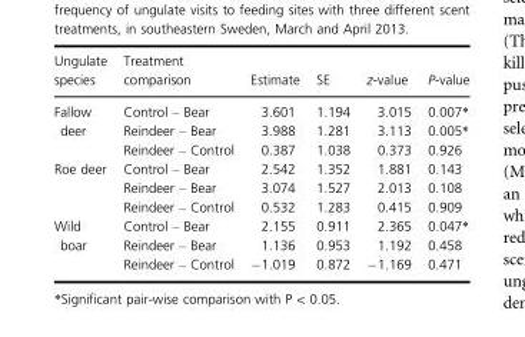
<table><thead><tr><td>Ungulate species</td><td>Treatment comparison</td><td>Estimate</td><td>SE</td><td>z-value</td><td>P-value</td></tr></thead><tbody><tr><td rowspan="3">Fallow deer</td><td>Control – Bear</td><td>3.601</td><td>1.194</td><td>3.015</td><td>0.007*</td></tr><tr><td>Reindeer – Bear</td><td>3.988</td><td>1.281</td><td>3.113</td><td>0.005*</td></tr><tr><td>Reindeer – Control</td><td>0.387</td><td>1.038</td><td>0.373</td><td>0.926</td></tr><tr><td rowspan="3">Roe deer</td><td>Control – Bear</td><td>2.542</td><td>1.352</td><td>1.881</td><td>0.143</td></tr><tr><td>Reindeer – Bear</td><td>3.074</td><td>1.527</td><td>2.013</td><td>0.108</td></tr><tr><td>Reindeer – Control</td><td>0.532</td><td>1.283</td><td>0.415</td><td>0.909</td></tr><tr><td rowspan="3">Wild boar</td><td>Control – Bear</td><td>2.155</td><td>0.911</td><td>2.365</td><td>0.047*</td></tr><tr><td>Reindeer – Bear</td><td>1.136</td><td>0.953</td><td>1.192</td><td>0.458</td></tr><tr><td>Reindeer – Control</td><td>−1.019</td><td>0.872</td><td>−1.169</td><td>0.471</td></tr></tbody></table>